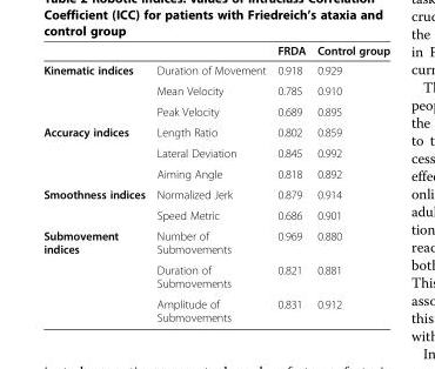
<table><thead><tr><td></td><td></td><td>FRDA</td><td>Control group</td></tr></thead><tbody><tr><td rowspan="3">Kinematic indices</td><td>Duration of Movement</td><td>0.918</td><td>0.929</td></tr><tr><td>Mean Velocity</td><td>0.785</td><td>0.910</td></tr><tr><td>Peak Velocity</td><td>0.689</td><td>0.895</td></tr><tr><td rowspan="3">Accuracy indices</td><td>Length Ratio</td><td>0.802</td><td>0.859</td></tr><tr><td>Lateral Deviation</td><td>0.845</td><td>0.992</td></tr><tr><td>Aiming Angle</td><td>0.818</td><td>0.892</td></tr><tr><td rowspan="2">Smoothness indices</td><td>Normalized Jerk</td><td>0.879</td><td>0.914</td></tr><tr><td>Speed Metric</td><td>0.686</td><td>0.901</td></tr><tr><td rowspan="3">Submovement indices</td><td>Number of Submovements</td><td>0.969</td><td>0.880</td></tr><tr><td>Duration of Submovements</td><td>0.821</td><td>0.881</td></tr><tr><td>Amplitude of Submovements</td><td>0.831</td><td>0.912</td></tr></tbody></table>